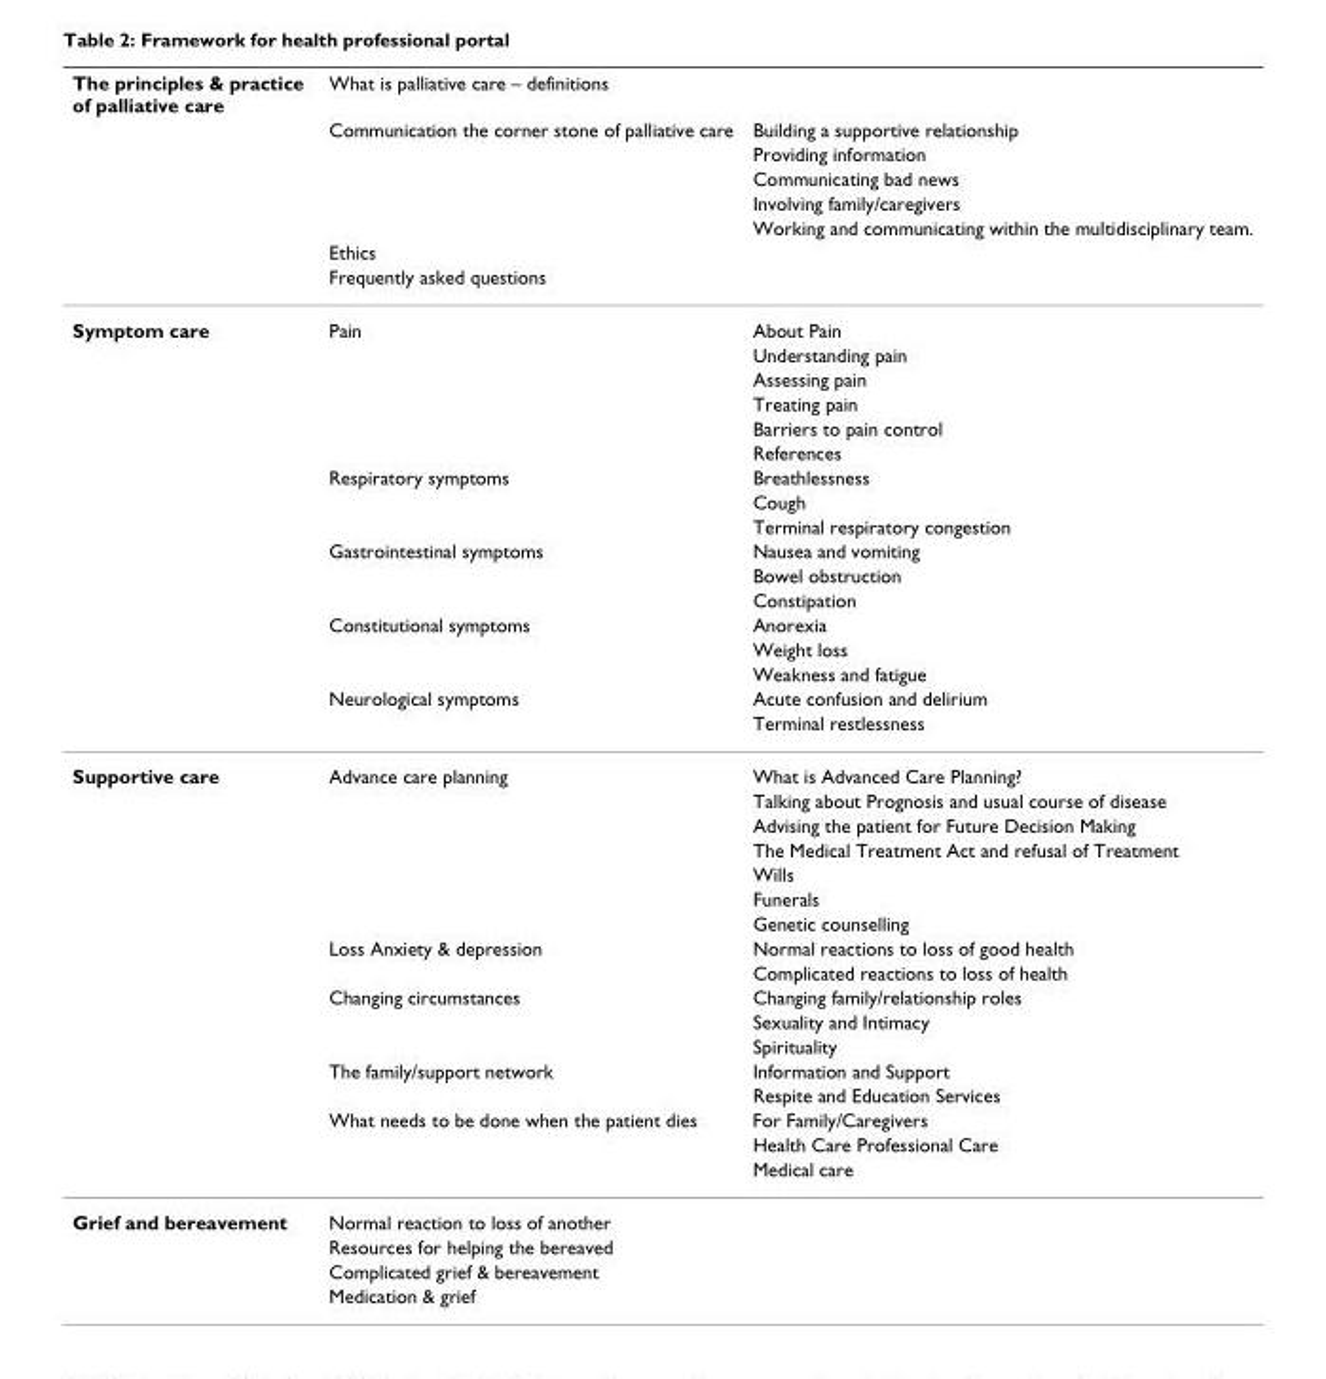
<table><thead><tr><td rowspan="8">The principles &amp; practice of palliative care</td><td rowspan="8">What is palliative care – definitions Communication the corner stone of palliative care Ethics Frequently asked questions</td><td rowspan="8">Building a supportive relationship Providing information Communicating bad news Involving family/caregivers Working and communicating within the multidisciplinary team.</td></tr><tr></tr><tr></tr><tr></tr><tr></tr><tr></tr><tr></tr><tr></tr></thead><tbody><tr><td rowspan="17">Symptom care</td><td>Pain</td><td>About Pain</td></tr><tr><td></td><td>Understanding pain</td></tr><tr><td></td><td>Assessing pain</td></tr><tr><td></td><td>Treating pain</td></tr><tr><td></td><td>Barriers to pain control</td></tr><tr><td></td><td>References</td></tr><tr><td>Respiratory symptoms</td><td>Breathlessness</td></tr><tr><td></td><td>Cough</td></tr><tr><td></td><td>Terminal respiratory congestion</td></tr><tr><td>Gastrointestinal symptoms</td><td>Nausea and vomiting</td></tr><tr><td></td><td>Bowel obstruction</td></tr><tr><td></td><td>Constipation</td></tr><tr><td>Constitutional symptoms</td><td>Anorexia</td></tr><tr><td></td><td>Weight loss</td></tr><tr><td></td><td>Weakness and fatigue</td></tr><tr><td>Neurological symptoms</td><td>Acute confusion and delirium</td></tr><tr><td></td><td>Terminal restlessness</td></tr><tr><td rowspan="17">Supportive care</td><td>Advance care planning</td><td>What is Advanced Care Planning?</td></tr><tr><td></td><td>Talking about Prognosis and usual course of disease</td></tr><tr><td></td><td>Advising the patient for Future Decision Making</td></tr><tr><td></td><td>The Medical Treatment Act and refusal of Treatment</td></tr><tr><td></td><td>Wills</td></tr><tr><td></td><td>Funerals</td></tr><tr><td></td><td>Genetic counselling</td></tr><tr><td>Loss Anxiety &amp; depression</td><td>Normal reactions to loss of good health</td></tr><tr><td></td><td>Complicated reactions to loss of health</td></tr><tr><td>Changing circumstances</td><td>Changing family/relationship roles</td></tr><tr><td></td><td>Sexuality and Intimacy</td></tr><tr><td></td><td>Spirituality</td></tr><tr><td>The family/support network</td><td>Information and Support</td></tr><tr><td></td><td>Respite and Education Services</td></tr><tr><td>What needs to be done when the patient dies</td><td>For Family/Caregivers</td></tr><tr><td></td><td>Health Care Professional Care</td></tr><tr><td></td><td>Medical care</td></tr><tr><td rowspan="4">Grief and bereavement</td><td>Normal reaction to loss of another</td><td></td></tr><tr><td>Resources for helping the bereaved</td><td></td></tr><tr><td>Complicated grief &amp; bereavement</td><td></td></tr><tr><td>Medication &amp; grief</td><td></td></tr></tbody></table>